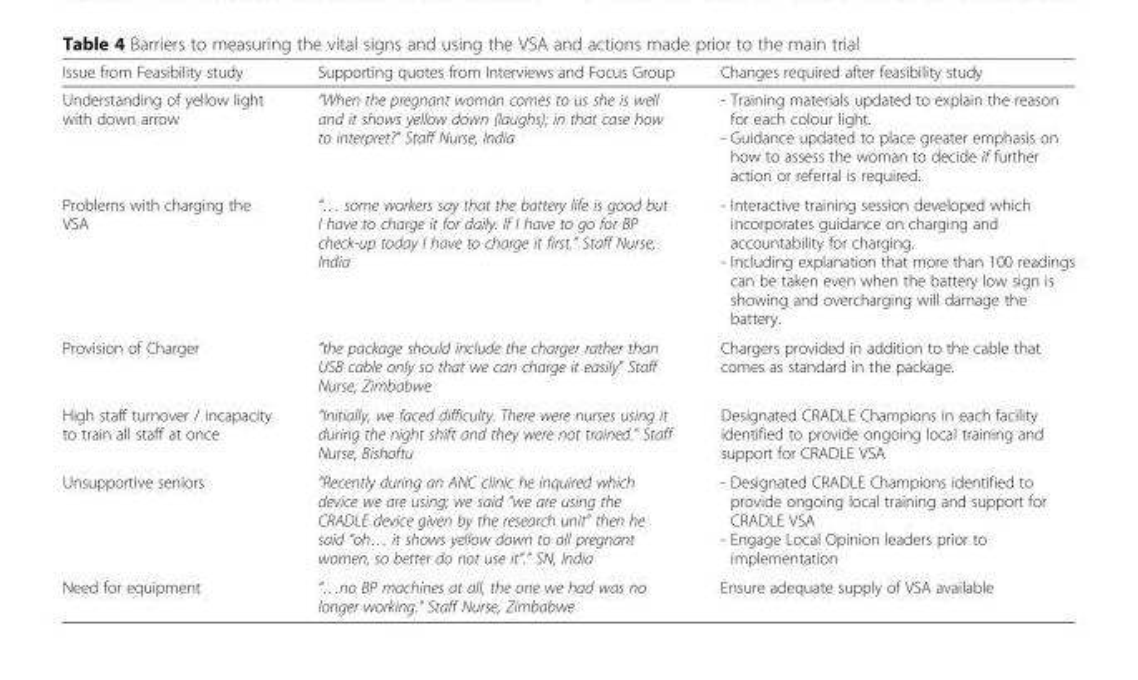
<table><thead><tr><td>Issue from Feasibility study</td><td>Supporting quotes from Interviews and Focus Group</td><td>Changes required after feasibility study</td></tr></thead><tbody><tr><td>Understanding of yellow light with down arrow</td><td>“When the pregnant woman comes to us she is well and it shows yellow down (laughs); in that case how to interpret?” Staff Nurse, India</td><td>- Training materials updated to explain the reason for each colour light. - Guidance updated to place greater emphasis on how to assess the woman to decide if further action or referral is required.</td></tr><tr><td>Problems with charging the VSA</td><td>“… some workers say that the battery life is good but I have to charge it for daily. If I have to go for BP check-up today I have to charge it first.” Staff Nurse, India</td><td>- Interactive training session developed which incorporates guidance on charging and accountability for charging. - Including explanation that more than 100 readings can be taken even when the battery low sign is showing and overcharging will damage the battery.</td></tr><tr><td>Provision of Charger</td><td>“the package should include the charger rather than USB cable only so that we can charge it easily” Staff Nurse, Zimbabwe</td><td>Chargers provided in addition to the cable that comes as standard in the package.</td></tr><tr><td>High staff turnover / incapacity to train all staff at once</td><td>“Initially, we faced difficulty. There were nurses using it during the night shift and they were not trained.” Staff Nurse, Bishoftu</td><td>Designated CRADLE Champions in each facility identified to provide ongoing local training and support for CRADLE VSA</td></tr><tr><td>Unsupportive seniors</td><td>“Recently during an ANC clinic he inquired which device we are using; we said “we are using the CRADLE device given by the research unit” then he said “oh… it shows yellow down to all pregnant women, so better do not use it”.” SN, India</td><td>- Designated CRADLE Champions identified to provide ongoing local training and support for CRADLE VSA - Engage Local Opinion leaders prior to implementation</td></tr><tr><td>Need for equipment</td><td>“…no BP machines at all, the one we had was no longer working.” Staff Nurse, Zimbabwe</td><td>Ensure adequate supply of VSA available</td></tr></tbody></table>